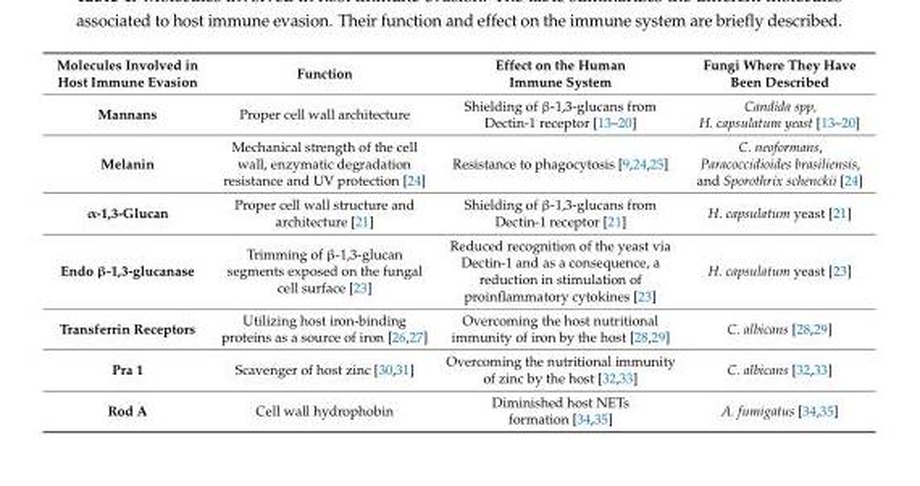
<table><thead><tr><td>Molecules Involved in Host Immune Evasion</td><td>Function</td><td>Effect on the Human Immune System</td><td>Fungi Where They Have Been Described</td></tr></thead><tbody><tr><td>Mannans</td><td>Proper cell wall architecture</td><td>Shielding of β-1,3-glucans from Dectin-1 receptor [13–20]</td><td>Candida spp, H. capsulatum yeast [13–20]</td></tr><tr><td>Melanin</td><td>Mechanical strength of the cell wall, enzymatic degradation resistance and UV protection [24]</td><td>Resistance to phagocytosis [9,24,25]</td><td>C. neoformans, Paracoccidioides brasiliensis, and Sporothrix schenckii [24]</td></tr><tr><td>α-1,3-Glucan</td><td>Proper cell wall structure and architecture [21]</td><td>Shielding of β-1,3-glucans from Dectin-1 receptor [21]</td><td>H. capsulatum yeast [21]</td></tr><tr><td>Endo β-1,3-glucanase</td><td>Trimming of β-1,3-glucan segments exposed on the fungal cell surface [23]</td><td>Reduced recognition of the yeast via Dectin-1 and as a consequence, a reduction in stimulation of proinflammatory cytokines [23]</td><td>H. capsulatum yeast [23]</td></tr><tr><td>Transferrin Receptors</td><td>Utilizing host iron-binding proteins as a source of iron [26,27]</td><td>Overcoming the host nutritional immunity of iron by the host [28,29]</td><td>C. albicans [28,29]</td></tr><tr><td>Pra 1</td><td>Scavenger of host zinc [30,31]</td><td>Overcoming the nutritional immunity of zinc by the host [32,33]</td><td>C. albicans [32,33]</td></tr><tr><td>Rod A</td><td>Cell wall hydrophobin</td><td>Diminished host NETs formation [34,35]</td><td>A. fumigatus [34,35]</td></tr></tbody></table>